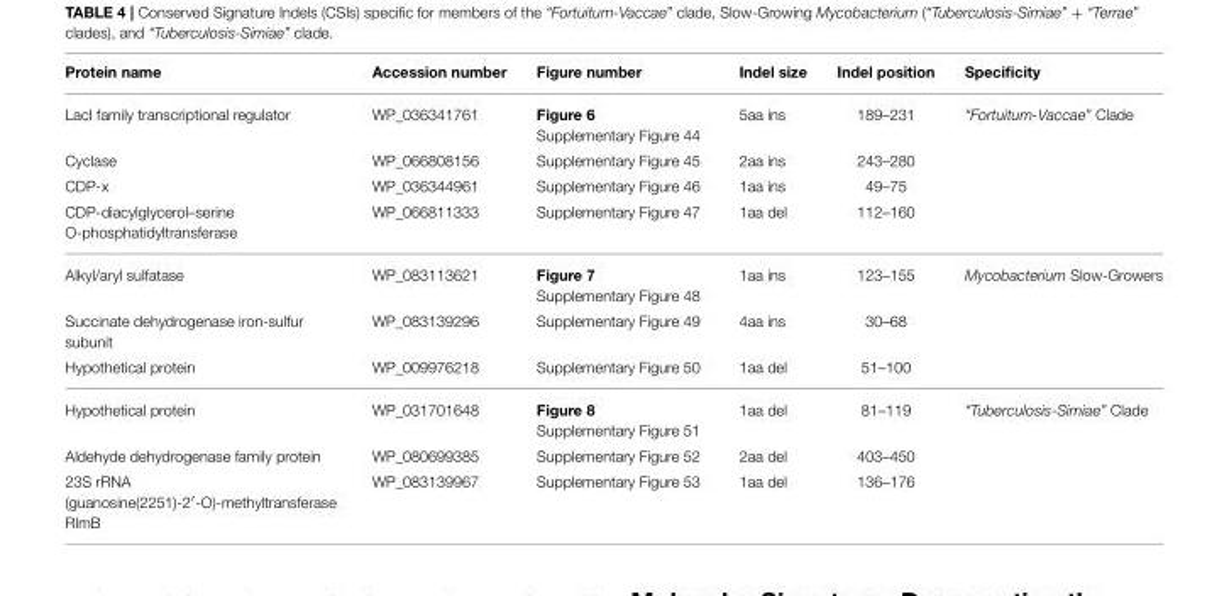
<table><thead><tr><td>Protein name</td><td>Accession number</td><td>Figure number</td><td>Indel size</td><td>Indel position</td><td>Specificity</td></tr></thead><tbody><tr><td>LacI family transcriptional regulator</td><td>WP_036341761</td><td>Figure 6 Supplementary Figure 44</td><td>5aa ins</td><td>189–231</td><td>“Fortuitum-Vaccae” Clade</td></tr><tr><td>Cyclase</td><td>WP_066808156</td><td>Supplementary Figure 45</td><td>2aa ins</td><td>243–280</td><td></td></tr><tr><td>CDP-x</td><td>WP_036344961</td><td>Supplementary Figure 46</td><td>1aa ins</td><td>49–75</td><td></td></tr><tr><td>CDP-diacylglycerol–serine O-phosphatidyltransferase</td><td>WP_066811333</td><td>Supplementary Figure 47</td><td>1aa del</td><td>112–160</td><td></td></tr><tr><td>Alkyl/aryl sulfatase</td><td>WP_083113621</td><td>Figure 7 Supplementary Figure 48</td><td>1aa ins</td><td>123–155</td><td>Mycobacterium Slow-Growers</td></tr><tr><td>Succinate dehydrogenase iron-sulfur subunit</td><td>WP_083139296</td><td>Supplementary Figure 49</td><td>4aa ins</td><td>30–68</td><td></td></tr><tr><td>Hypothetical protein</td><td>WP_009976218</td><td>Supplementary Figure 50</td><td>1aa del</td><td>51–100</td><td></td></tr><tr><td>Hypothetical protein</td><td>WP_031701648</td><td>Figure 8 Supplementary Figure 51</td><td>1aa del</td><td>81–119</td><td>“Tuberculosis-Simiae” Clade</td></tr><tr><td>Aldehyde dehydrogenase family protein</td><td>WP_080699385</td><td>Supplementary Figure 52</td><td>2aa del</td><td>403–450</td><td></td></tr><tr><td>23S rRNA (guanosine(2251)-2′-O)-methyltransferase RlmB</td><td>WP_083139967</td><td>Supplementary Figure 53</td><td>1aa del</td><td>136–176</td><td></td></tr></tbody></table>